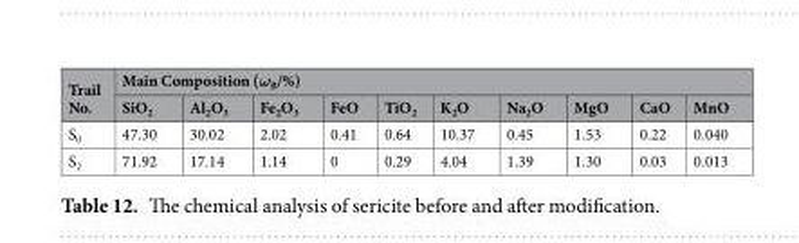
<table><thead><tr><td rowspan="2">Trail No.</td><td colspan="10">Main Composition (ω<sub>B</sub>/%)</td></tr><tr><td>SiO<sub>2</sub></td><td>Al<sub>2</sub>O<sub>3</sub></td><td>Fe<sub>2</sub>O<sub>3</sub></td><td>FeO</td><td>TiO<sub>2</sub></td><td>K<sub>2</sub>O</td><td>Na<sub>2</sub>O</td><td>MgO</td><td>CaO</td><td>MnO</td></tr></thead><tbody><tr><td>S<sub>0</sub></td><td>47.30</td><td>30.02</td><td>2.02</td><td>0.41</td><td>0.64</td><td>10.37</td><td>0.45</td><td>1.53</td><td>0.22</td><td>0.040</td></tr><tr><td>S<sub>2</sub></td><td>71.92</td><td>17.14</td><td>1.14</td><td>0</td><td>0.29</td><td>4.04</td><td>1.39</td><td>1.30</td><td>0.03</td><td>0.013</td></tr></tbody></table>